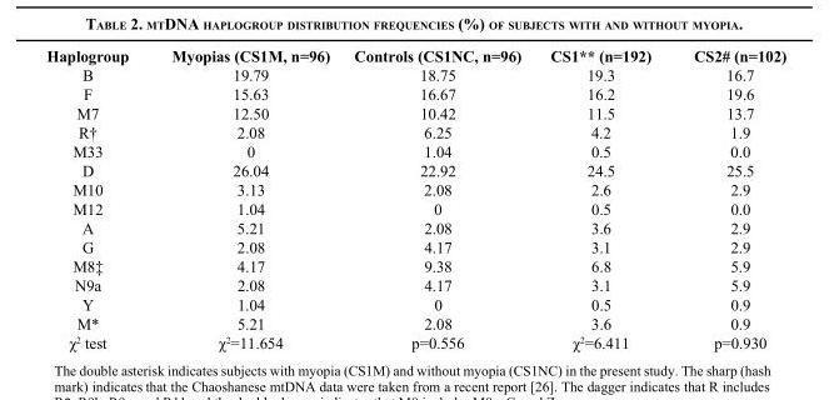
<table><thead><tr><td>Haplogroup</td><td>Myopias (CS1M, n=96)</td><td>Controls (CS1NC, n=96)</td><td>CS1** (n=192)</td><td>CS2# (n=102)</td></tr></thead><tbody><tr><td>B</td><td>19.79</td><td>18.75</td><td>19.3</td><td>16.7</td></tr><tr><td>F</td><td>15.63</td><td>16.67</td><td>16.2</td><td>19.6</td></tr><tr><td>M7</td><td>12.50</td><td>10.42</td><td>11.5</td><td>13.7</td></tr><tr><td>R†</td><td>2.08</td><td>6.25</td><td>4.2</td><td>1.9</td></tr><tr><td>M33</td><td>0</td><td>1.04</td><td>0.5</td><td>0.0</td></tr><tr><td>D</td><td>26.04</td><td>22.92</td><td>24.5</td><td>25.5</td></tr><tr><td>M10</td><td>3.13</td><td>2.08</td><td>2.6</td><td>2.9</td></tr><tr><td>M12</td><td>1.04</td><td>0</td><td>0.5</td><td>0.0</td></tr><tr><td>A</td><td>5.21</td><td>2.08</td><td>3.6</td><td>2.9</td></tr><tr><td>G</td><td>2.08</td><td>4.17</td><td>3.1</td><td>2.9</td></tr><tr><td>M8‡</td><td>4.17</td><td>9.38</td><td>6.8</td><td>5.9</td></tr><tr><td>N9a</td><td>2.08</td><td>4.17</td><td>3.1</td><td>5.9</td></tr><tr><td>Y</td><td>1.04</td><td>0</td><td>0.5</td><td>0.9</td></tr><tr><td>M*</td><td>5.21</td><td>2.08</td><td>3.6</td><td>0.9</td></tr><tr><td>χ<sup>2</sup> test</td><td>χ<sup>2</sup>=11.654</td><td>p=0.556</td><td>χ<sup>2</sup>=6.411</td><td>p=0.930</td></tr></tbody></table>